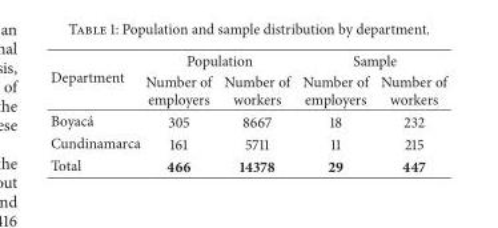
<table><thead><tr><td rowspan="2">Department</td><td colspan="2">Population</td><td colspan="2">Sample</td></tr><tr><td>Number of employers</td><td>Number of workers</td><td>Number of employers</td><td>Number of workers</td></tr></thead><tbody><tr><td>Boyac´a</td><td>305</td><td>8667</td><td>18</td><td>232</td></tr><tr><td>Cundinamarca</td><td>161</td><td>5711</td><td>11</td><td>215</td></tr><tr><td>Total</td><td>466</td><td>14378</td><td>29</td><td>447</td></tr></tbody></table>